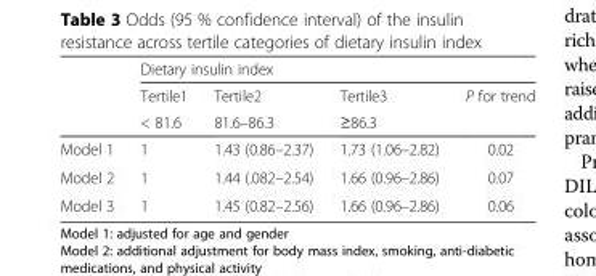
<table><thead><tr><td rowspan="3"></td><td colspan="4">Dietary insulin index</td></tr><tr><td rowspan="2">Tertile1 &lt; 81.6</td><td rowspan="2">Tertile2 81.6–86.3</td><td rowspan="2">Tertile3 ≥86.3</td><td rowspan="2">P for trend</td></tr><tr></tr></thead><tbody><tr><td>Model 1</td><td>1</td><td>1.43 (0.86–2.37)</td><td>1.73 (1.06–2.82)</td><td>0.02</td></tr><tr><td>Model 2</td><td>1</td><td>1.44 (.082–2.54)</td><td>1.66 (0.96–2.86)</td><td>0.07</td></tr><tr><td>Model 3</td><td>1</td><td>1.45 (0.82–2.56)</td><td>1.66 (0.96–2.86)</td><td>0.06</td></tr></tbody></table>